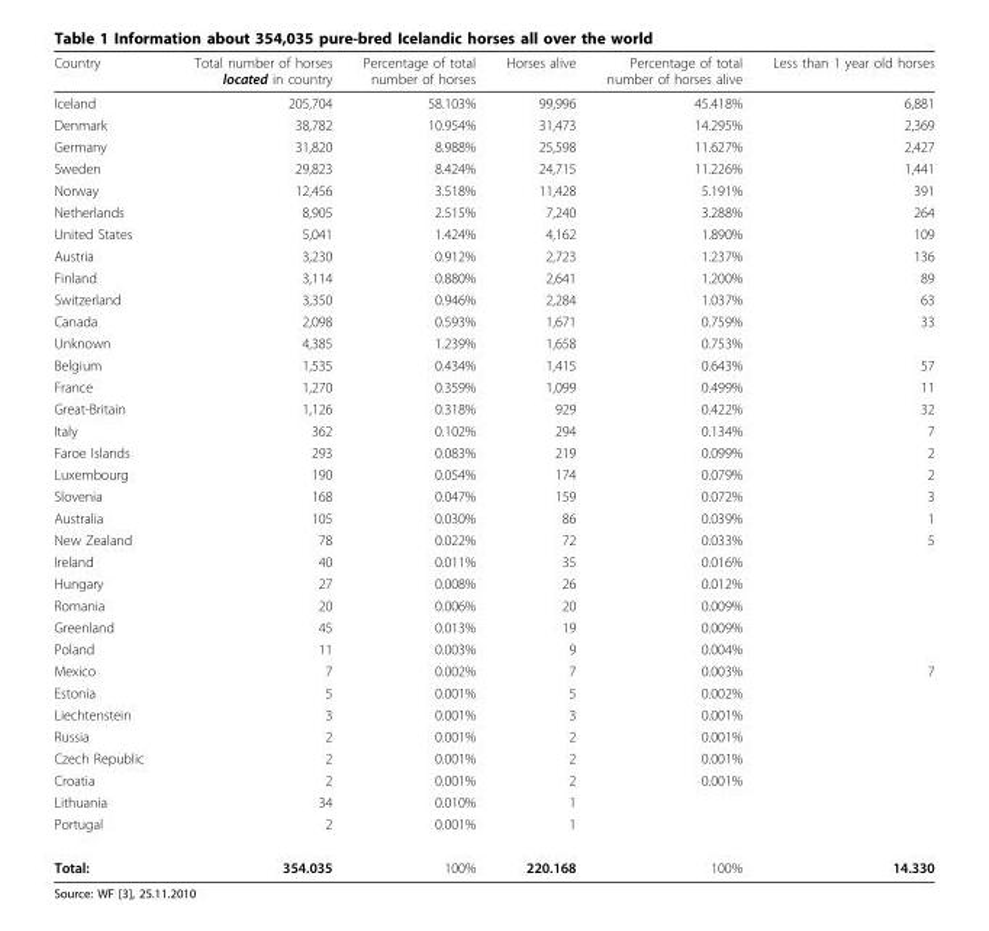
<table><thead><tr><td>Country</td><td>Total number of horses located in country</td><td>Percentage of total number of horses</td><td>Horses alive</td><td>Percentage of total number of horses alive</td><td>Less than 1 year old horses</td></tr></thead><tbody><tr><td>Iceland</td><td>205,704</td><td>58.103%</td><td>99,996</td><td>45.418%</td><td>6,881</td></tr><tr><td>Denmark</td><td>38,782</td><td>10.954%</td><td>31,473</td><td>14.295%</td><td>2,369</td></tr><tr><td>Germany</td><td>31,820</td><td>8.988%</td><td>25,598</td><td>11.627%</td><td>2,427</td></tr><tr><td>Sweden</td><td>29,823</td><td>8.424%</td><td>24,715</td><td>11.226%</td><td>1,441</td></tr><tr><td>Norway</td><td>12,456</td><td>3.518%</td><td>11,428</td><td>5.191%</td><td>391</td></tr><tr><td>Netherlands</td><td>8,905</td><td>2.515%</td><td>7,240</td><td>3.288%</td><td>264</td></tr><tr><td>United States</td><td>5,041</td><td>1.424%</td><td>4,162</td><td>1.890%</td><td>109</td></tr><tr><td>Austria</td><td>3,230</td><td>0.912%</td><td>2,723</td><td>1.237%</td><td>136</td></tr><tr><td>Finland</td><td>3,114</td><td>0.880%</td><td>2,641</td><td>1.200%</td><td>89</td></tr><tr><td>Switzerland</td><td>3,350</td><td>0.946%</td><td>2,284</td><td>1.037%</td><td>63</td></tr><tr><td>Canada</td><td>2,098</td><td>0.593%</td><td>1,671</td><td>0.759%</td><td>33</td></tr><tr><td>Unknown</td><td>4,385</td><td>1.239%</td><td>1,658</td><td>0.753%</td><td></td></tr><tr><td>Belgium</td><td>1,535</td><td>0.434%</td><td>1,415</td><td>0.643%</td><td>57</td></tr><tr><td>France</td><td>1,270</td><td>0.359%</td><td>1,099</td><td>0.499%</td><td>11</td></tr><tr><td>Great-Britain</td><td>1,126</td><td>0.318%</td><td>929</td><td>0.422%</td><td>32</td></tr><tr><td>Italy</td><td>362</td><td>0.102%</td><td>294</td><td>0.134%</td><td>7</td></tr><tr><td>Faroe Islands</td><td>293</td><td>0.083%</td><td>219</td><td>0.099%</td><td>2</td></tr><tr><td>Luxembourg</td><td>190</td><td>0.054%</td><td>174</td><td>0.079%</td><td>2</td></tr><tr><td>Slovenia</td><td>168</td><td>0.047%</td><td>159</td><td>0.072%</td><td>3</td></tr><tr><td>Australia</td><td>105</td><td>0.030%</td><td>86</td><td>0.039%</td><td>1</td></tr><tr><td>New Zealand</td><td>78</td><td>0.022%</td><td>72</td><td>0.033%</td><td>5</td></tr><tr><td>Ireland</td><td>40</td><td>0.011%</td><td>35</td><td>0.016%</td><td></td></tr><tr><td>Hungary</td><td>27</td><td>0.008%</td><td>26</td><td>0.012%</td><td></td></tr><tr><td>Romania</td><td>20</td><td>0.006%</td><td>20</td><td>0.009%</td><td></td></tr><tr><td>Greenland</td><td>45</td><td>0.013%</td><td>19</td><td>0.009%</td><td></td></tr><tr><td>Poland</td><td>11</td><td>0.003%</td><td>9</td><td>0.004%</td><td></td></tr><tr><td>Mexico</td><td>7</td><td>0.002%</td><td>7</td><td>0.003%</td><td>7</td></tr><tr><td>Estonia</td><td>5</td><td>0.001%</td><td>5</td><td>0.002%</td><td></td></tr><tr><td>Liechtenstein</td><td>3</td><td>0.001%</td><td>3</td><td>0.001%</td><td></td></tr><tr><td>Russia</td><td>2</td><td>0.001%</td><td>2</td><td>0.001%</td><td></td></tr><tr><td>Czech Republic</td><td>2</td><td>0.001%</td><td>2</td><td>0.001%</td><td></td></tr><tr><td>Croatia</td><td>2</td><td>0.001%</td><td>2</td><td>0.001%</td><td></td></tr><tr><td>Lithuania</td><td>34</td><td>0.010%</td><td>1</td><td></td><td></td></tr><tr><td>Portugal</td><td>2</td><td>0.001%</td><td>1</td><td></td><td></td></tr><tr><td>Total:</td><td>354.035</td><td>100%</td><td>220.168</td><td>100%</td><td>14.330</td></tr></tbody></table>